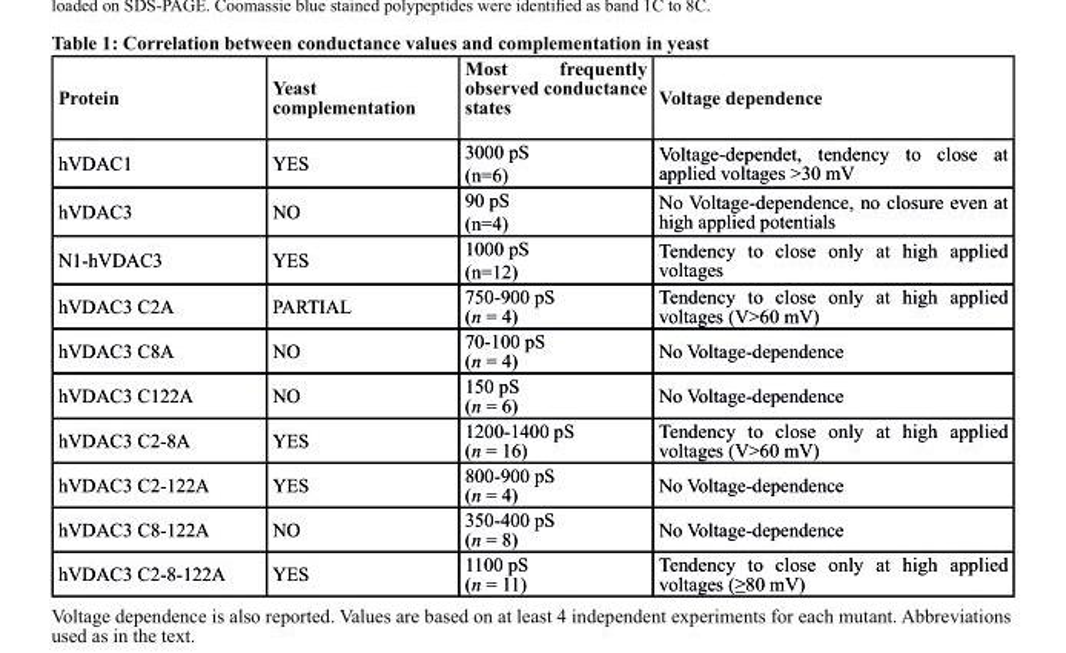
<table><thead><tr><td>Protein</td><td>Yeast complementation</td><td>Most frequently observed conductance states</td><td>Voltage dependence</td></tr></thead><tbody><tr><td>hVDAC1</td><td>YES</td><td>3000 pS (n=6)</td><td>Voltage-dependet, tendency to close at applied voltages &gt;30 mV</td></tr><tr><td>hVDAC3</td><td>NO</td><td>90 pS (n=4)</td><td>No Voltage-dependence, no closure even at high applied potentials</td></tr><tr><td>N1-hVDAC3</td><td>YES</td><td>1000 pS (n=12)</td><td>Tendency to close only at high applied voltages</td></tr><tr><td>hVDAC3 C2A</td><td>PARTIAL</td><td>750-900 pS (n = 4)</td><td>Tendency to close only at high applied voltages (V&gt;60 mV)</td></tr><tr><td>hVDAC3 C8A</td><td>NO</td><td>70-100 pS (n = 4)</td><td>No Voltage-dependence</td></tr><tr><td>hVDAC3 C122A</td><td>NO</td><td>150 pS (n = 6)</td><td>No Voltage-dependence</td></tr><tr><td>hVDAC3 C2-8A</td><td>YES</td><td>1200-1400 pS (n = 16)</td><td>Tendency to close only at high applied voltages (V&gt;60 mV)</td></tr><tr><td>hVDAC3 C2-122A</td><td>YES</td><td>800-900 pS (n = 4)</td><td>No Voltage-dependence</td></tr><tr><td>hVDAC3 C8-122A</td><td>NO</td><td>350-400 pS (n = 8)</td><td>No Voltage-dependence</td></tr><tr><td>hVDAC3 C2-8-122A</td><td>YES</td><td>1100 pS (n = 11)</td><td>Tendency to close only at high applied voltages (≥80 mV)</td></tr></tbody></table>